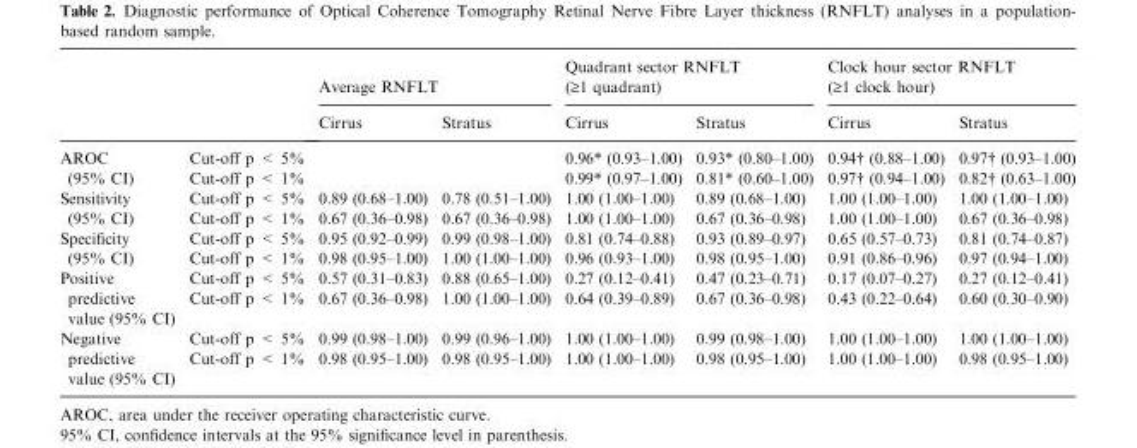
<table><thead><tr><td rowspan="2"></td><td rowspan="2"></td><td colspan="2">Average RNFLT</td><td colspan="2">Quadrant sector RNFLT (‡1 quadrant)</td><td colspan="2">Clock hour sector RNFLT (‡1 clock hour)</td></tr><tr><td>Cirrus</td><td>Stratus</td><td>Cirrus</td><td>Stratus</td><td>Cirrus</td><td>Stratus</td></tr></thead><tbody><tr><td rowspan="2">AROC (95% CI)</td><td>Cut-off p &lt; 5%</td><td></td><td></td><td>0.96* (0.93–1.00)</td><td>0.93* (0.80–1.00)</td><td>0.94† (0.88–1.00)</td><td>0.97† (0.93–1.00)</td></tr><tr><td>Cut-off p &lt; 1%</td><td></td><td></td><td>0.99* (0.97–1.00)</td><td>0.81* (0.60–1.00)</td><td>0.97† (0.94–1.00)</td><td>0.82† (0.63–1.00)</td></tr><tr><td rowspan="2">Sensitivity (95% CI)</td><td>Cut-off p &lt; 5%</td><td>0.89 (0.68–1.00)</td><td>0.78 (0.51–1.00)</td><td>1.00 (1.00–1.00)</td><td>0.89 (0.68–1.00)</td><td>1.00 (1.00–1.00)</td><td>1.00 (1.00–1.00)</td></tr><tr><td>Cut-off p &lt; 1%</td><td>0.67 (0.36–0.98)</td><td>0.67 (0.36–0.98)</td><td>1.00 (1.00–1.00)</td><td>0.67 (0.36–0.98)</td><td>1.00 (1.00–1.00)</td><td>0.67 (0.36–0.98)</td></tr><tr><td rowspan="2">Specificity (95% CI)</td><td>Cut-off p &lt; 5%</td><td>0.95 (0.92–0.99)</td><td>0.99 (0.98–1.00)</td><td>0.81 (0.74–0.88)</td><td>0.93 (0.89–0.97)</td><td>0.65 (0.57–0.73)</td><td>0.81 (0.74–0.87)</td></tr><tr><td>Cut-off p &lt; 1%</td><td>0.98 (0.95–1.00)</td><td>1.00 (1.00–1.00)</td><td>0.96 (0.93–1.00)</td><td>0.98 (0.95–1.00)</td><td>0.91 (0.86–0.96)</td><td>0.97 (0.94–1.00)</td></tr><tr><td rowspan="2">Positive predictive value (95% CI)</td><td>Cut-off p &lt; 5%</td><td>0.57 (0.31–0.83)</td><td>0.88 (0.65–1.00)</td><td>0.27 (0.12–0.41)</td><td>0.47 (0.23–0.71)</td><td>0.17 (0.07–0.27)</td><td>0.27 (0.12–0.41)</td></tr><tr><td>Cut-off p &lt; 1%</td><td>0.67 (0.36–0.98)</td><td>1.00 (1.00–1.00)</td><td>0.64 (0.39–0.89)</td><td>0.67 (0.36–0.98)</td><td>0.43 (0.22–0.64)</td><td>0.60 (0.30–0.90)</td></tr><tr><td rowspan="2">Negative predictive value (95% CI)</td><td>Cut-off p &lt; 5%</td><td>0.99 (0.98–1.00)</td><td>0.99 (0.96–1.00)</td><td>1.00 (1.00–1.00)</td><td>0.99 (0.98–1.00)</td><td>1.00 (1.00–1.00)</td><td>1.00 (1.00–1.00)</td></tr><tr><td>Cut-off p &lt; 1%</td><td>0.98 (0.95–1.00)</td><td>0.98 (0.95–1.00)</td><td>1.00 (1.00–1.00)</td><td>0.98 (0.95–1.00)</td><td>1.00 (1.00–1.00)</td><td>0.98 (0.95–1.00)</td></tr></tbody></table>